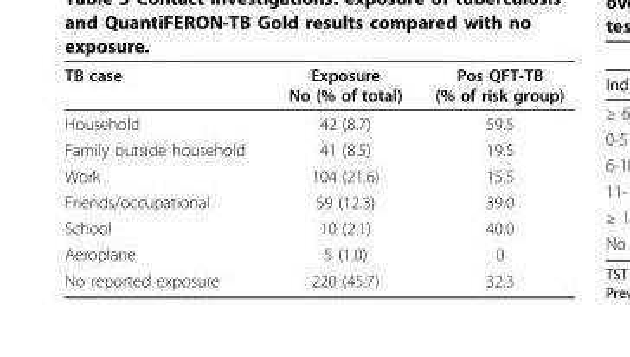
<table><thead><tr><td>TB case</td><td>Exposure No (% of total)</td><td>Pos QFT-TB (% of risk group)</td></tr></thead><tbody><tr><td>Household</td><td>42 (8.7)</td><td>59.5</td></tr><tr><td>Family outside household</td><td>41 (8.5)</td><td>19.5</td></tr><tr><td>Work</td><td>104 (21.6)</td><td>15.5</td></tr><tr><td>Friends/occupational</td><td>59 (12.3)</td><td>39.0</td></tr><tr><td>School</td><td>10 (2.1)</td><td>40.0</td></tr><tr><td>Aeroplane</td><td>5 (1.0)</td><td>0</td></tr><tr><td>No reported exposure</td><td>220 (45.7)</td><td>32.3</td></tr></tbody></table>